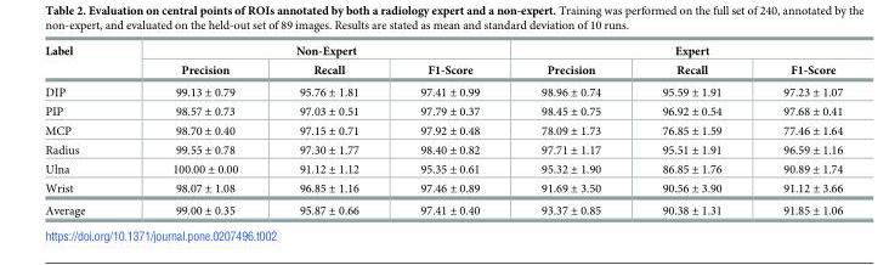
<table><thead><tr><td rowspan="2">Label</td><td colspan="3">Non-Expert</td><td colspan="3">Expert</td></tr><tr><td>Precision</td><td>Recall</td><td>F1-Score</td><td>Precision</td><td>Recall</td><td>F1-Score</td></tr></thead><tbody><tr><td>DIP</td><td>99.13 ± 0.79</td><td>95.76 ± 1.81</td><td>97.41 ± 0.99</td><td>98.96 ± 0.74</td><td>95.59 ± 1.91</td><td>97.23 ± 1.07</td></tr><tr><td>PIP</td><td>98.57 ± 0.73</td><td>97.03 ± 0.51</td><td>97.79 ± 0.37</td><td>98.45 ± 0.75</td><td>96.92 ± 0.54</td><td>97.68 ± 0.41</td></tr><tr><td>MCP</td><td>98.70 ± 0.40</td><td>97.15 ± 0.71</td><td>97.92 ± 0.48</td><td>78.09 ± 1.73</td><td>76.85 ± 1.59</td><td>77.46 ± 1.64</td></tr><tr><td>Radius</td><td>99.55 ± 0.78</td><td>97.30 ± 1.77</td><td>98.40 ± 0.82</td><td>97.71 ± 1.17</td><td>95.51 ± 1.91</td><td>96.59 ± 1.16</td></tr><tr><td>Ulna</td><td>100.00 ± 0.00</td><td>91.12 ± 1.12</td><td>95.35 ± 0.61</td><td>95.32 ± 1.90</td><td>86.85 ± 1.76</td><td>90.89 ± 1.74</td></tr><tr><td>Wrist</td><td>98.07 ± 1.08</td><td>96.85 ± 1.16</td><td>97.46 ± 0.89</td><td>91.69 ± 3.50</td><td>90.56 ± 3.90</td><td>91.12 ± 3.66</td></tr><tr><td>Average</td><td>99.00 ± 0.35</td><td>95.87 ± 0.66</td><td>97.41 ± 0.40</td><td>93.37 ± 0.85</td><td>90.38 ± 1.31</td><td>91.85 ± 1.06</td></tr></tbody></table>